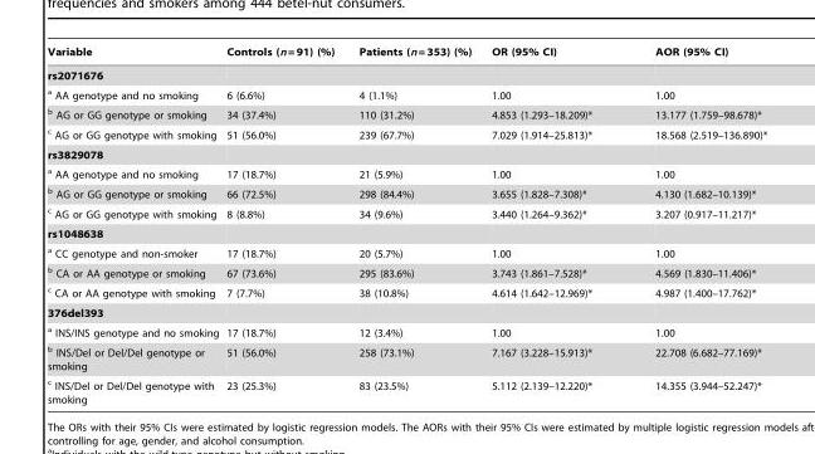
<table><thead><tr><td>Variable</td><td>Controls (n = 91) (%)</td><td>Patients (n = 353) (%)</td><td>OR (95% CI)</td><td>AOR (95% CI)</td></tr></thead><tbody><tr><td colspan="5">rs2071676</td></tr><tr><td>a AA genotype and no smoking</td><td>6 (6.6%)</td><td>4 (1.1%)</td><td>1.00</td><td>1.00</td></tr><tr><td>b AG or GG genotype or smoking</td><td>34 (37.4%)</td><td>110 (31.2%)</td><td>4.853 (1.293–18.209)*</td><td>13.177 (1.759–98.678)*</td></tr><tr><td>c AG or GG genotype with smoking</td><td>51 (56.0%)</td><td>239 (67.7%)</td><td>7.029 (1.914–25.813)*</td><td>18.568 (2.519–136.890)*</td></tr><tr><td colspan="5">rs3829078</td></tr><tr><td>a AA genotype and no smoking</td><td>17 (18.7%)</td><td>21 (5.9%)</td><td>1.00</td><td>1.00</td></tr><tr><td>b AG or GG genotype or smoking</td><td>66 (72.5%)</td><td>298 (84.4%)</td><td>3.655 (1.828–7.308)*</td><td>4.130 (1.682–10.139)*</td></tr><tr><td>c AG or GG genotype with smoking</td><td>8 (8.8%)</td><td>34 (9.6%)</td><td>3.440 (1.264–9.362)*</td><td>3.207 (0.917–11.217)*</td></tr><tr><td colspan="5">rs1048638</td></tr><tr><td>a CC genotype and non-smoker</td><td>17 (18.7%)</td><td>20 (5.7%)</td><td>1.00</td><td>1.00</td></tr><tr><td>b CA or AA genotype or smoking</td><td>67 (73.6%)</td><td>295 (83.6%)</td><td>3.743 (1.861–7.528)*</td><td>4.569 (1.830–11.406)*</td></tr><tr><td>c CA or AA genotype with smoking</td><td>7 (7.7%)</td><td>38 (10.8%)</td><td>4.614 (1.642–12.969)*</td><td>4.987 (1.400–17.762)*</td></tr><tr><td colspan="5">376del393</td></tr><tr><td>a INS/INS genotype and no smoking</td><td>17 (18.7%)</td><td>12 (3.4%)</td><td>1.00</td><td>1.00</td></tr><tr><td>b INS/Del or Del/Del genotype or smoking</td><td>51 (56.0%)</td><td>258 (73.1%)</td><td>7.167 (3.228–15.913)*</td><td>22.708 (6.682–77.169)*</td></tr><tr><td>c INS/Del or Del/Del genotype with smoking</td><td>23 (25.3%)</td><td>83 (23.5%)</td><td>5.112 (2.139–12.220)*</td><td>14.355 (3.944–52.247)*</td></tr></tbody></table>